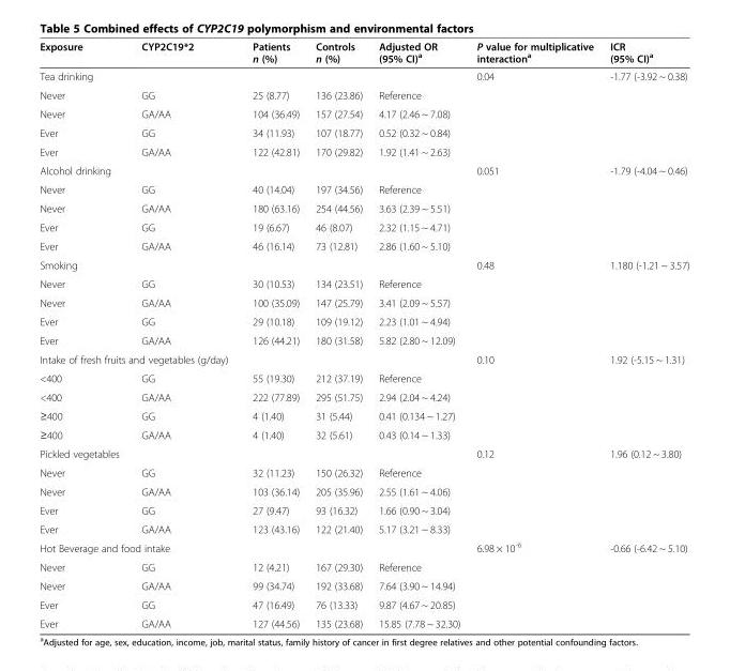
<table><thead><tr><td>Exposure</td><td>CYP2C19*2</td><td>Patients n (%)</td><td>Controls n (%)</td><td>Adjusted OR (95% CI)<sup>a</sup></td><td>P value for multiplicative interaction<sup>a</sup></td><td>ICR (95% CI)<sup>a</sup></td></tr></thead><tbody><tr><td colspan="2">Tea drinking</td><td></td><td></td><td></td><td>0.04</td><td>-1.77 (-3.92 ~ 0.38)</td></tr><tr><td>Never</td><td>GG</td><td>25 (8.77)</td><td>136 (23.86)</td><td>Reference</td><td></td><td></td></tr><tr><td>Never</td><td>GA/AA</td><td>104 (36.49)</td><td>157 (27.54)</td><td>4.17 (2.46 ~ 7.08)</td><td></td><td></td></tr><tr><td>Ever</td><td>GG</td><td>34 (11.93)</td><td>107 (18.77)</td><td>0.52 (0.32 ~ 0.84)</td><td></td><td></td></tr><tr><td>Ever</td><td>GA/AA</td><td>122 (42.81)</td><td>170 (29.82)</td><td>1.92 (1.41 ~ 2.63)</td><td></td><td></td></tr><tr><td colspan="2">Alcohol drinking</td><td></td><td></td><td></td><td>0.051</td><td>-1.79 (-4.04 ~ 0.46)</td></tr><tr><td>Never</td><td>GG</td><td>40 (14.04)</td><td>197 (34.56)</td><td>Reference</td><td></td><td></td></tr><tr><td>Never</td><td>GA/AA</td><td>180 (63.16)</td><td>254 (44.56)</td><td>3.63 (2.39 ~ 5.51)</td><td></td><td></td></tr><tr><td>Ever</td><td>GG</td><td>19 (6.67)</td><td>46 (8.07)</td><td>2.32 (1.15 ~ 4.71)</td><td></td><td></td></tr><tr><td>Ever</td><td>GA/AA</td><td>46 (16.14)</td><td>73 (12.81)</td><td>2.86 (1.60 ~ 5.10)</td><td></td><td></td></tr><tr><td>Smoking</td><td></td><td></td><td></td><td></td><td>0.48</td><td>1.180 (-1.21 ~ 3.57)</td></tr><tr><td>Never</td><td>GG</td><td>30 (10.53)</td><td>134 (23.51)</td><td>Reference</td><td></td><td></td></tr><tr><td>Never</td><td>GA/AA</td><td>100 (35.09)</td><td>147 (25.79)</td><td>3.41 (2.09 ~ 5.57)</td><td></td><td></td></tr><tr><td>Ever</td><td>GG</td><td>29 (10.18)</td><td>109 (19.12)</td><td>2.23 (1.01 ~ 4.94)</td><td></td><td></td></tr><tr><td>Ever</td><td>GA/AA</td><td>126 (44.21)</td><td>180 (31.58)</td><td>5.82 (2.80 ~ 12.09)</td><td></td><td></td></tr><tr><td colspan="2">Intake of fresh fruits and vegetables (g/day)</td><td></td><td></td><td></td><td>0.10</td><td>1.92 (-5.15 ~ 1.31)</td></tr><tr><td>&lt;400</td><td>GG</td><td>55 (19.30)</td><td>212 (37.19)</td><td>Reference</td><td></td><td></td></tr><tr><td>&lt;400</td><td>GA/AA</td><td>222 (77.89)</td><td>295 (51.75)</td><td>2.94 (2.04 ~ 4.24)</td><td></td><td></td></tr><tr><td>≥400</td><td>GG</td><td>4 (1.40)</td><td>31 (5.44)</td><td>0.41 (0.134 ~ 1.27)</td><td></td><td></td></tr><tr><td>≥400</td><td>GA/AA</td><td>4 (1.40)</td><td>32 (5.61)</td><td>0.43 (0.14 ~ 1.33)</td><td></td><td></td></tr><tr><td colspan="2">Pickled vegetables</td><td></td><td></td><td></td><td>0.12</td><td>1.96 (0.12 ~ 3.80)</td></tr><tr><td>Never</td><td>GG</td><td>32 (11.23)</td><td>150 (26.32)</td><td>Reference</td><td></td><td></td></tr><tr><td>Never</td><td>GA/AA</td><td>103 (36.14)</td><td>205 (35.96)</td><td>2.55 (1.61 ~ 4.06)</td><td></td><td></td></tr><tr><td>Ever</td><td>GG</td><td>27 (9.47)</td><td>93 (16.32)</td><td>1.66 (0.90 ~ 3.04)</td><td></td><td></td></tr><tr><td>Ever</td><td>GA/AA</td><td>123 (43.16)</td><td>122 (21.40)</td><td>5.17 (3.21 ~ 8.33)</td><td></td><td></td></tr><tr><td colspan="3">Hot Beverage and food intake</td><td></td><td></td><td>6.98 × 10<sup>-6</sup></td><td>-0.66 (-6.42 ~ 5.10)</td></tr><tr><td>Never</td><td>GG</td><td>12 (4.21)</td><td>167 (29.30)</td><td>Reference</td><td></td><td></td></tr><tr><td>Never</td><td>GA/AA</td><td>99 (34.74)</td><td>192 (33.68)</td><td>7.64 (3.90 ~ 14.94)</td><td></td><td></td></tr><tr><td>Ever</td><td>GG</td><td>47 (16.49)</td><td>76 (13.33)</td><td>9.87 (4.67 ~ 20.85)</td><td></td><td></td></tr><tr><td>Ever</td><td>GA/AA</td><td>127 (44.56)</td><td>135 (23.68)</td><td>15.85 (7.78 ~ 32.30)</td><td></td><td></td></tr></tbody></table>